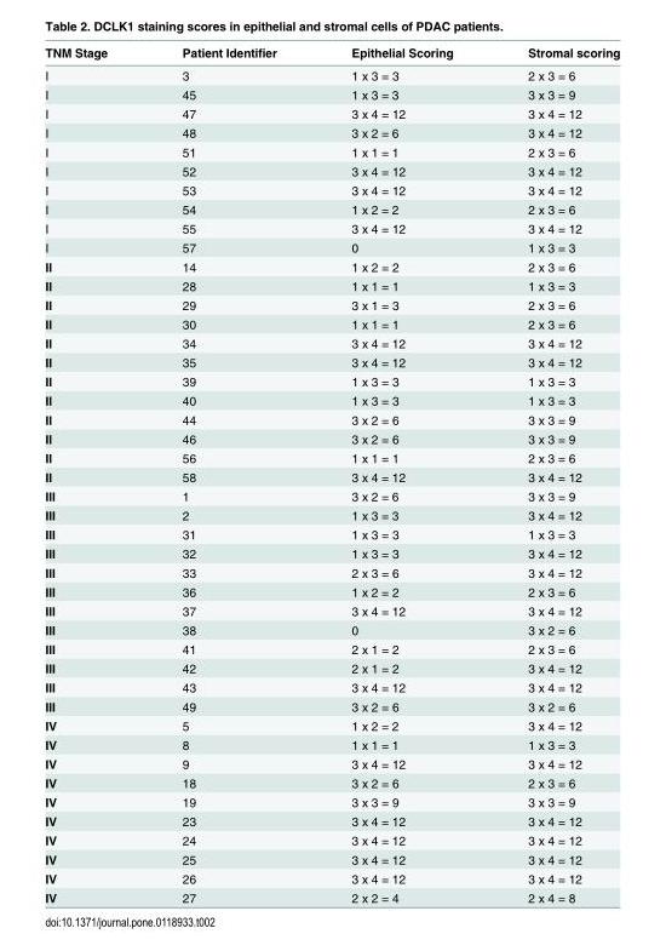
<table><thead><tr><td>TNM Stage</td><td>Patient Identifier</td><td>Epithelial Scoring</td><td>Stromal scoring</td></tr></thead><tbody><tr><td>I</td><td>3</td><td>1 x 3 = 3</td><td>2 x 3 = 6</td></tr><tr><td>I</td><td>45</td><td>1 x 3 = 3</td><td>3 x 3 = 9</td></tr><tr><td>I</td><td>47</td><td>3 x 4 = 12</td><td>3 x 4 = 12</td></tr><tr><td>I</td><td>48</td><td>3 x 2 = 6</td><td>3 x 4 = 12</td></tr><tr><td>I</td><td>51</td><td>1 x 1 = 1</td><td>2 x 3 = 6</td></tr><tr><td>I</td><td>52</td><td>3 x 4 = 12</td><td>3 x 4 = 12</td></tr><tr><td>I</td><td>53</td><td>3 x 4 = 12</td><td>3 x 4 = 12</td></tr><tr><td>I</td><td>54</td><td>1 x 2 = 2</td><td>2 x 3 = 6</td></tr><tr><td>I</td><td>55</td><td>3 x 4 = 12</td><td>3 x 4 = 12</td></tr><tr><td>I</td><td>57</td><td>0</td><td>1 x 3 = 3</td></tr><tr><td>II</td><td>14</td><td>1 x 2 = 2</td><td>2 x 3 = 6</td></tr><tr><td>II</td><td>28</td><td>1 x 1 = 1</td><td>1 x 3 = 3</td></tr><tr><td>II</td><td>29</td><td>3 x 1 = 3</td><td>2 x 3 = 6</td></tr><tr><td>II</td><td>30</td><td>1 x 1 = 1</td><td>2 x 3 = 6</td></tr><tr><td>II</td><td>34</td><td>3 x 4 = 12</td><td>3 x 4 = 12</td></tr><tr><td>II</td><td>35</td><td>3 x 4 = 12</td><td>3 x 4 = 12</td></tr><tr><td>II</td><td>39</td><td>1 x 3 = 3</td><td>1 x 3 = 3</td></tr><tr><td>II</td><td>40</td><td>1 x 3 = 3</td><td>1 x 3 = 3</td></tr><tr><td>II</td><td>44</td><td>3 x 2 = 6</td><td>3 x 3 = 9</td></tr><tr><td>II</td><td>46</td><td>3 x 2 = 6</td><td>3 x 3 = 9</td></tr><tr><td>II</td><td>56</td><td>1 x 1 = 1</td><td>2 x 3 = 6</td></tr><tr><td>II</td><td>58</td><td>3 x 4 = 12</td><td>3 x 4 = 12</td></tr><tr><td>III</td><td>1</td><td>3 x 2 = 6</td><td>3 x 3 = 9</td></tr><tr><td>III</td><td>2</td><td>1 x 3 = 3</td><td>3 x 4 = 12</td></tr><tr><td>III</td><td>31</td><td>1 x 3 = 3</td><td>1 x 3 = 3</td></tr><tr><td>III</td><td>32</td><td>1 x 3 = 3</td><td>3 x 4 = 12</td></tr><tr><td>III</td><td>33</td><td>2 x 3 = 6</td><td>3 x 4 = 12</td></tr><tr><td>III</td><td>36</td><td>1 x 2 = 2</td><td>2 x 3 = 6</td></tr><tr><td>III</td><td>37</td><td>3 x 4 = 12</td><td>3 x 4 = 12</td></tr><tr><td>III</td><td>38</td><td>0</td><td>3 x 2 = 6</td></tr><tr><td>III</td><td>41</td><td>2 x 1 = 2</td><td>2 x 3 = 6</td></tr><tr><td>III</td><td>42</td><td>2 x 1 = 2</td><td>3 x 4 = 12</td></tr><tr><td>III</td><td>43</td><td>3 x 4 = 12</td><td>3 x 4 = 12</td></tr><tr><td>III</td><td>49</td><td>3 x 2 = 6</td><td>3 x 2 = 6</td></tr><tr><td>IV</td><td>5</td><td>1 x 2 = 2</td><td>3 x 4 = 12</td></tr><tr><td>IV</td><td>8</td><td>1 x 1 = 1</td><td>1 x 3 = 3</td></tr><tr><td>IV</td><td>9</td><td>3 x 4 = 12</td><td>3 x 4 = 12</td></tr><tr><td>IV</td><td>18</td><td>3 x 2 = 6</td><td>2 x 3 = 6</td></tr><tr><td>IV</td><td>19</td><td>3 x 3 = 9</td><td>3 x 3 = 9</td></tr><tr><td>IV</td><td>23</td><td>3 x 4 = 12</td><td>3 x 4 = 12</td></tr><tr><td>IV</td><td>24</td><td>3 x 4 = 12</td><td>3 x 4 = 12</td></tr><tr><td>IV</td><td>25</td><td>3 x 4 = 12</td><td>3 x 4 = 12</td></tr><tr><td>IV</td><td>26</td><td>3 x 4 = 12</td><td>3 x 4 = 12</td></tr><tr><td>IV</td><td>27</td><td>2 x 2 = 4</td><td>2 x 4 = 8</td></tr></tbody></table>